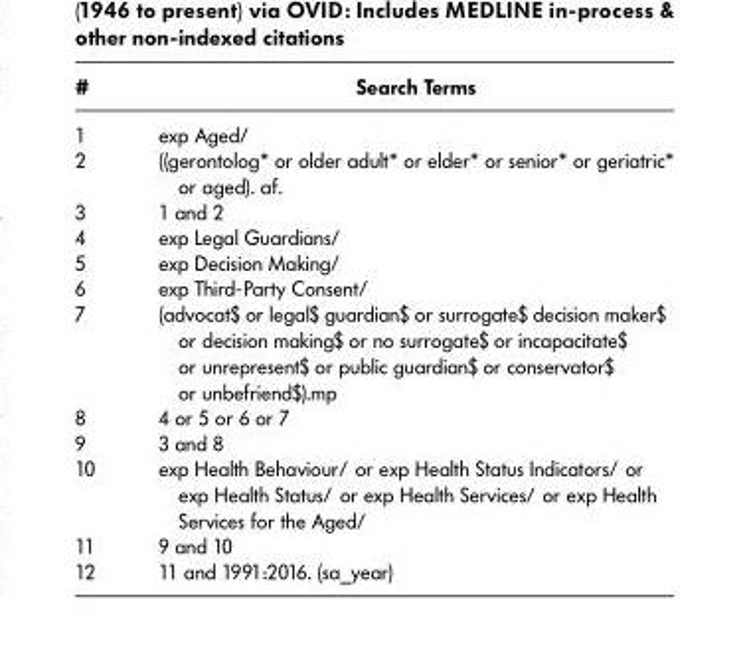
<table><thead><tr><td>#</td><td>Search Terms</td></tr></thead><tbody><tr><td>1</td><td>exp Aged/</td></tr><tr><td>2</td><td>((gerontolog* or older adult* or elder* or senior* or geriatric* or aged). af.</td></tr><tr><td>3</td><td>1 and 2</td></tr><tr><td>4</td><td>exp Legal Guardians/</td></tr><tr><td>5</td><td>exp Decision Making/</td></tr><tr><td>6</td><td>exp Third-Party Consent/</td></tr><tr><td>7</td><td>(advocat$ or legal$ guardian$ or surrogate$ decision maker$ or decision making$ or no surrogate$ or incapacitate$ or unrepresent$ or public guardian$ or conservator$ or unbefriend$).mp</td></tr><tr><td>8</td><td>4 or 5 or 6 or 7</td></tr><tr><td>9</td><td>3 and 8</td></tr><tr><td>10</td><td>exp Health Behaviour/ or exp Health Status Indicators/ or exp Health Status/ or exp Health Services/ or exp Health Services for the Aged/</td></tr><tr><td>11</td><td>9 and 10</td></tr><tr><td>12</td><td>11 and 1991:2016. (sa_year)</td></tr></tbody></table>